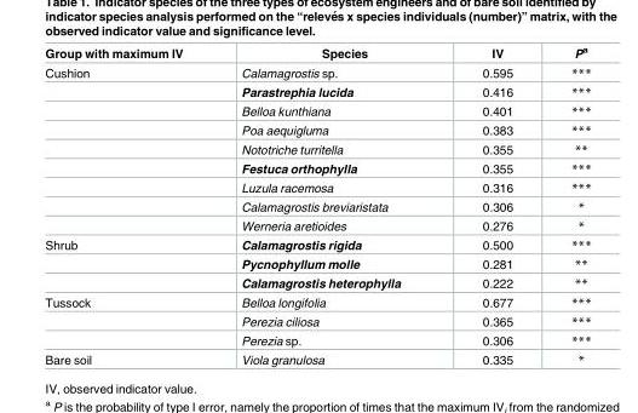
<table><thead><tr><td>Group with maximum IV</td><td>Species</td><td>IV</td><td>P<sup>a</sup></td></tr></thead><tbody><tr><td rowspan="9">Cushion</td><td>Calamagrostis sp.</td><td>0.595</td><td>***</td></tr><tr><td>Parastrephia lucida</td><td>0.416</td><td>***</td></tr><tr><td>Belloa kunthiana</td><td>0.401</td><td>***</td></tr><tr><td>Poa aequigluma</td><td>0.383</td><td>***</td></tr><tr><td>Nototriche turritella</td><td>0.355</td><td>**</td></tr><tr><td>Festuca orthophylla</td><td>0.355</td><td>***</td></tr><tr><td>Luzula racemosa</td><td>0.316</td><td>***</td></tr><tr><td>Calamagrostis breviaristata</td><td>0.306</td><td>*</td></tr><tr><td>Werneria aretioides</td><td>0.276</td><td>*</td></tr><tr><td rowspan="3">Shrub</td><td>Calamagrostis rigida</td><td>0.500</td><td>***</td></tr><tr><td>Pycnophyllum molle</td><td>0.281</td><td>**</td></tr><tr><td>Calamagrostis heterophylla</td><td>0.222</td><td>**</td></tr><tr><td rowspan="3">Tussock</td><td>Belloa longifolia</td><td>0.677</td><td>***</td></tr><tr><td>Perezia ciliosa</td><td>0.365</td><td>***</td></tr><tr><td>Perezia sp.</td><td>0.306</td><td>***</td></tr><tr><td>Bare soil</td><td>Viola granulosa</td><td>0.335</td><td>*</td></tr></tbody></table>